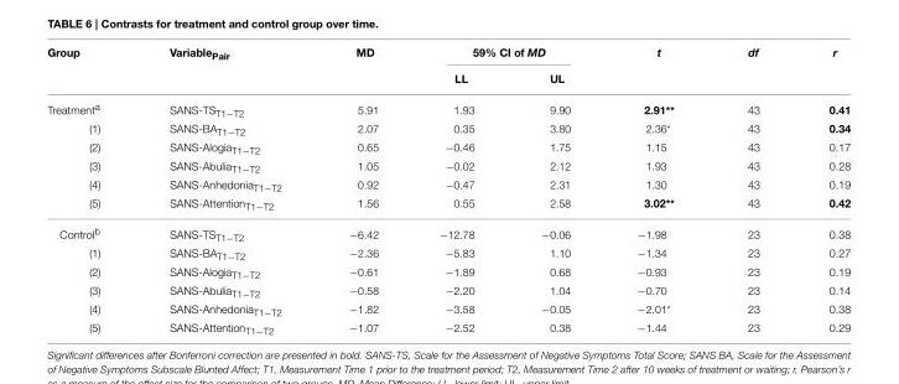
<table><thead><tr><td rowspan="2">Group</td><td rowspan="2">Variable<sub>Pair</sub></td><td rowspan="2">MD</td><td colspan="2">59% CI of MD</td><td rowspan="2">t</td><td rowspan="2">df</td><td rowspan="2">r</td></tr><tr><td>LL</td><td>UL</td></tr></thead><tbody><tr><td>Treatment<sup>a</sup></td><td>SANS-TS<sub>T1−T2</sub></td><td>5.91</td><td>1.93</td><td>9.90</td><td>2.91**</td><td>43</td><td>0.41</td></tr><tr><td>(1)</td><td>SANS-BA<sub>T1−T2</sub></td><td>2.07</td><td>0.35</td><td>3.80</td><td>2.36*</td><td>43</td><td>0.34</td></tr><tr><td>(2)</td><td>SANS-Alogia<sub>T1−T2</sub></td><td>0.65</td><td>−0.46</td><td>1.75</td><td>1.15</td><td>43</td><td>0.17</td></tr><tr><td>(3)</td><td>SANS-Abulia<sub>T1−T2</sub></td><td>1.05</td><td>−0.02</td><td>2.12</td><td>1.93</td><td>43</td><td>0.28</td></tr><tr><td>(4)</td><td>SANS-Anhedonia<sub>T1−T2</sub></td><td>0.92</td><td>−0.47</td><td>2.31</td><td>1.30</td><td>43</td><td>0.19</td></tr><tr><td>(5)</td><td>SANS-Attention<sub>T1−T2</sub></td><td>1.56</td><td>0.55</td><td>2.58</td><td>3.02**</td><td>43</td><td>0.42</td></tr><tr><td>Control<sup>b</sup></td><td>SANS-TS<sub>T1−T2</sub></td><td>−6.42</td><td>−12.78</td><td>−0.06</td><td>−1.98</td><td>23</td><td>0.38</td></tr><tr><td>(1)</td><td>SANS-BA<sub>T1−T2</sub></td><td>−2.36</td><td>−5.83</td><td>1.10</td><td>−1.34</td><td>23</td><td>0.27</td></tr><tr><td>(2)</td><td>SANS-Alogia<sub>T1−T2</sub></td><td>−0.61</td><td>−1.89</td><td>0.68</td><td>−0.93</td><td>23</td><td>0.19</td></tr><tr><td>(3)</td><td>SANS-Abulia<sub>T1−T2</sub></td><td>−0.58</td><td>−2.20</td><td>1.04</td><td>−0.70</td><td>23</td><td>0.14</td></tr><tr><td>(4)</td><td>SANS-Anhedonia<sub>T1−T2</sub></td><td>−1.82</td><td>−3.58</td><td>−0.05</td><td>−2.01*</td><td>23</td><td>0.38</td></tr><tr><td>(5)</td><td>SANS-Attention<sub>T1−T2</sub></td><td>−1.07</td><td>−2.52</td><td>0.38</td><td>−1.44</td><td>23</td><td>0.29</td></tr></tbody></table>